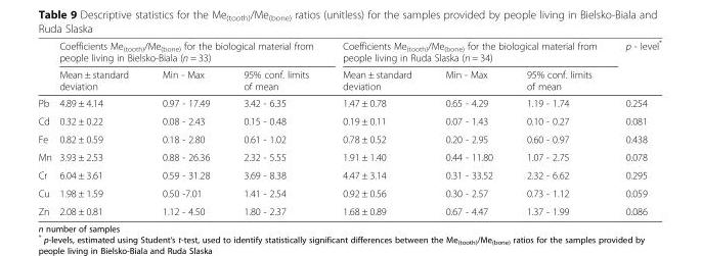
<table><thead><tr><td rowspan="2"></td><td colspan="3">Coefficients Me<sub>(tooth)</sub>/Me<sub>(bone)</sub> for the biological material from people living in Bielsko-Biala (n = 33)</td><td colspan="3">Coefficients Me<sub>(tooth)</sub>/Me<sub>(bone)</sub> for the biological material from people living in Ruda Slaska (n = 34)</td><td rowspan="2">p - level*</td></tr><tr><td>Mean ± standard deviation</td><td>Min - Max</td><td>95% conf. limits of mean</td><td>Mean ± standard deviation</td><td>Min - Max</td><td>95% conf. limits of mean</td></tr></thead><tbody><tr><td>Pb</td><td>4.89 ± 4.14</td><td>0.97 - 17.49</td><td>3.42 - 6.35</td><td>1.47 ± 0.78</td><td>0.65 - 4.29</td><td>1.19 - 1.74</td><td>0.254</td></tr><tr><td>Cd</td><td>0.32 ± 0.22</td><td>0.08 - 2.43</td><td>0.15 - 0.48</td><td>0.19 ± 0.11</td><td>0.07 - 1.43</td><td>0.10 - 0.27</td><td>0.081</td></tr><tr><td>Fe</td><td>0.82 ± 0.59</td><td>0.18 - 2.80</td><td>0.61 - 1.02</td><td>0.78 ± 0.52</td><td>0.20 - 2.95</td><td>0.60 - 0.97</td><td>0.438</td></tr><tr><td>Mn</td><td>3.93 ± 2.53</td><td>0.88 - 26.36</td><td>2.32 - 5.55</td><td>1.91 ± 1.40</td><td>0.44 - 11.80</td><td>1.07 - 2.75</td><td>0.078</td></tr><tr><td>Cr</td><td>6.04 ± 3.61</td><td>0.59 - 31.28</td><td>3.69 - 8.38</td><td>4.47 ± 3.14</td><td>0.31 - 33.52</td><td>2.32 - 6.62</td><td>0.295</td></tr><tr><td>Cu</td><td>1.98 ± 1.59</td><td>0.50 -7.01</td><td>1.41 - 2.54</td><td>0.92 ± 0.56</td><td>0.30 - 2.57</td><td>0.73 - 1.12</td><td>0.059</td></tr><tr><td>Zn</td><td>2.08 ± 0.81</td><td>1.12 - 4.50</td><td>1.80 - 2.37</td><td>1.68 ± 0.89</td><td>0.67 - 4.47</td><td>1.37 - 1.99</td><td>0.086</td></tr></tbody></table>